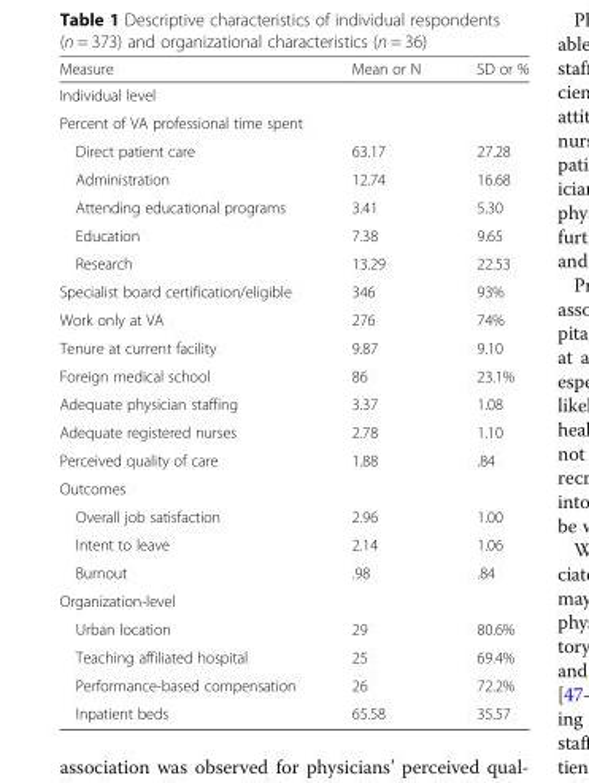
<table><thead><tr><td>Measure</td><td>Mean or N</td><td>SD or %</td></tr></thead><tbody><tr><td colspan="3">Individual level</td></tr><tr><td colspan="3">Percent of VA professional time spent</td></tr><tr><td>Direct patient care</td><td>63.17</td><td>27.28</td></tr><tr><td>Administration</td><td>12.74</td><td>16.68</td></tr><tr><td>Attending educational programs</td><td>3.41</td><td>5.30</td></tr><tr><td>Education</td><td>7.38</td><td>9.65</td></tr><tr><td>Research</td><td>13.29</td><td>22.53</td></tr><tr><td>Specialist board certification/eligible</td><td>346</td><td>93%</td></tr><tr><td>Work only at VA</td><td>276</td><td>74%</td></tr><tr><td>Tenure at current facility</td><td>9.87</td><td>9.10</td></tr><tr><td>Foreign medical school</td><td>86</td><td>23.1%</td></tr><tr><td>Adequate physician staffing</td><td>3.37</td><td>1.08</td></tr><tr><td>Adequate registered nurses</td><td>2.78</td><td>1.10</td></tr><tr><td>Perceived quality of care</td><td>1.88</td><td>.84</td></tr><tr><td colspan="3">Outcomes</td></tr><tr><td>Overall job satisfaction</td><td>2.96</td><td>1.00</td></tr><tr><td>Intent to leave</td><td>2.14</td><td>1.06</td></tr><tr><td>Burnout</td><td>.98</td><td>.84</td></tr><tr><td colspan="3">Organization-level</td></tr><tr><td>Urban location</td><td>29</td><td>80.6%</td></tr><tr><td>Teaching affiliated hospital</td><td>25</td><td>69.4%</td></tr><tr><td>Performance-based compensation</td><td>26</td><td>72.2%</td></tr><tr><td>Inpatient beds</td><td>65.58</td><td>35.57</td></tr></tbody></table>